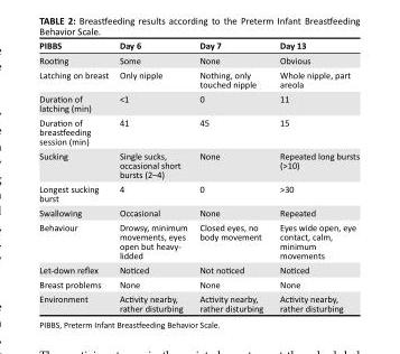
<table><thead><tr><td>PIBBS</td><td>Day 6</td><td>Day 7</td><td>Day 13</td></tr></thead><tbody><tr><td>Rooting</td><td>Some</td><td>None</td><td>Obvious</td></tr><tr><td>Latching on breast</td><td>Only nipple</td><td>Nothing, only touched nipple</td><td>Whole nipple, part areola</td></tr><tr><td>Duration of latching (min)</td><td>&lt;1</td><td>0</td><td>11</td></tr><tr><td>Duration of breastfeeding session (min)</td><td>41</td><td>45</td><td>15</td></tr><tr><td>Sucking</td><td>Single sucks, occasional short bursts (2–4)</td><td>None</td><td>Repeated long bursts (&gt;10)</td></tr><tr><td>Longest sucking burst</td><td>4</td><td>0</td><td>&gt;30</td></tr><tr><td>Swallowing</td><td>Occasional</td><td>None</td><td>Repeated</td></tr><tr><td>Behaviour</td><td>Drowsy, minimum movements, eyes open but heavy- lidded</td><td>Closed eyes, no body movement</td><td>Eyes wide open, eye contact, calm, minimum movements</td></tr><tr><td>Let-down reflex</td><td>Noticed</td><td>Not noticed</td><td>Noticed</td></tr><tr><td>Breast problems</td><td>None</td><td>None</td><td>None</td></tr><tr><td>Environment</td><td>Activity nearby, rather disturbing</td><td>Activity nearby, rather disturbing</td><td>Activity nearby, rather disturbing</td></tr></tbody></table>